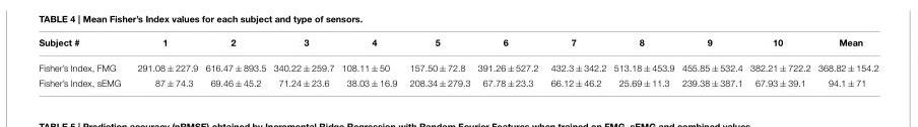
<table><thead><tr><td>Subject #</td><td>1</td><td>2</td><td>3</td><td>4</td><td>5</td><td>6</td><td>7</td><td>8</td><td>9</td><td>10</td><td>Mean</td></tr></thead><tbody><tr><td>Fisher’s Index, FMG</td><td>291.08 ± 227.9</td><td>616.47 ± 893.5</td><td>340.22 ± 259.7</td><td>108.11 ± 50</td><td>157.50 ± 72.8</td><td>391.26 ± 527.2</td><td>432.3 ± 342.2</td><td>513.18 ± 453.9</td><td>455.85 ± 532.4</td><td>382.21 ± 722.2</td><td>368.82 ± 154.2</td></tr><tr><td>Fisher’s Index, sEMG</td><td>87 ± 74.3</td><td>69.46 ± 45.2</td><td>71.24 ± 23.6</td><td>38.03 ± 16.9</td><td>208.34 ± 279.3</td><td>67.78 ± 23.3</td><td>66.12 ± 46.2</td><td>25.69 ± 11.3</td><td>239.38 ± 387.1</td><td>67.93 ± 39.1</td><td>94.1 ± 71</td></tr></tbody></table>